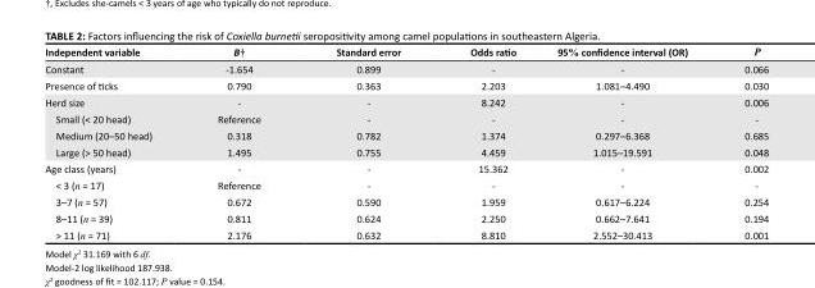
<table><thead><tr><td>Independent variable</td><td>B†</td><td>Standard error</td><td>Odds ratio</td><td>95% confidence interval (OR)</td><td>P</td></tr></thead><tbody><tr><td>Constant</td><td>-1.654</td><td>0.899</td><td>-</td><td>-</td><td>0.066</td></tr><tr><td>Presence of ticks</td><td>0.790</td><td>0.363</td><td>2.203</td><td>1.081–4.490</td><td>0.030</td></tr><tr><td>Herd size</td><td>-</td><td>-</td><td>8.242</td><td>-</td><td>0.006</td></tr><tr><td>Small (&lt; 20 head)</td><td>Reference</td><td>-</td><td>-</td><td>-</td><td>-</td></tr><tr><td>Medium (20–50 head)</td><td>0.318</td><td>0.782</td><td>1.374</td><td>0.297–6.368</td><td>0.685</td></tr><tr><td>Large (&gt; 50 head)</td><td>1.495</td><td>0.755</td><td>4.459</td><td>1.015–19.591</td><td>0.048</td></tr><tr><td>Age class (years)</td><td>-</td><td>-</td><td>15.362</td><td>-</td><td>0.002</td></tr><tr><td>&lt; 3 (n = 17)</td><td>Reference</td><td>-</td><td>-</td><td>-</td><td>-</td></tr><tr><td>3–7 (n = 57)</td><td>0.672</td><td>0.590</td><td>1.959</td><td>0.617–6.224</td><td>0.254</td></tr><tr><td>8–11 (n = 39)</td><td>0.811</td><td>0.624</td><td>2.250</td><td>0.662–7.641</td><td>0.194</td></tr><tr><td>&gt; 11 (n = 71)</td><td>2.176</td><td>0.632</td><td>8.810</td><td>2.552–30.413</td><td>0.001</td></tr></tbody></table>